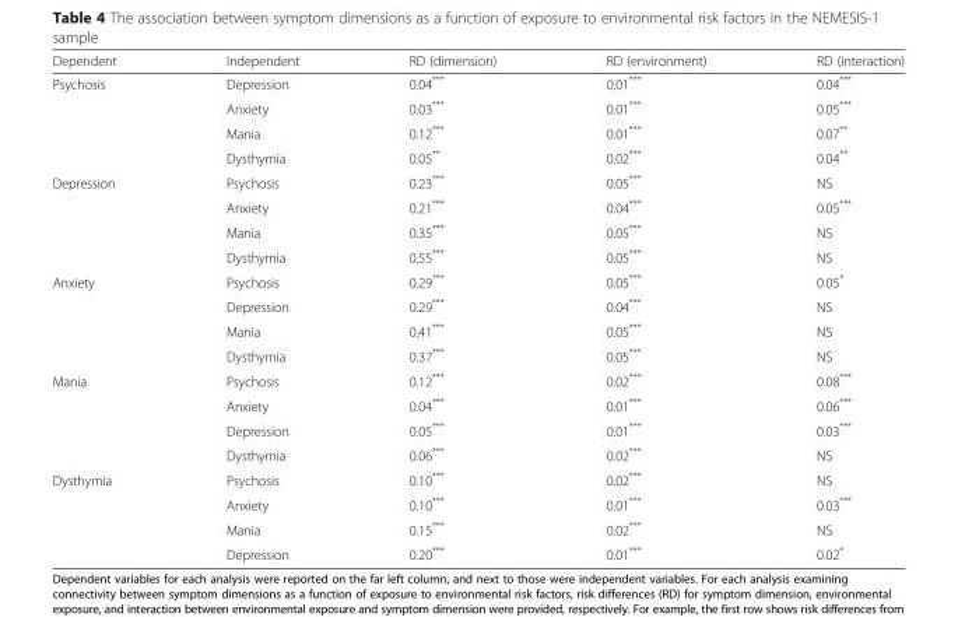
<table><thead><tr><td>Dependent</td><td>Independent</td><td>RD (dimension)</td><td>RD (environment)</td><td>RD (interaction)</td></tr></thead><tbody><tr><td rowspan="4">Psychosis</td><td>Depression</td><td>0.04***</td><td>0.01***</td><td>0.04***</td></tr><tr><td>Anxiety</td><td>0.03***</td><td>0.01***</td><td>0.05***</td></tr><tr><td>Mania</td><td>0.12***</td><td>0.01***</td><td>0.07**</td></tr><tr><td>Dysthymia</td><td>0.05**</td><td>0.02***</td><td>0.04**</td></tr><tr><td rowspan="4">Depression</td><td>Psychosis</td><td>0.23***</td><td>0.05***</td><td>NS</td></tr><tr><td>Anxiety</td><td>0.21***</td><td>0.04***</td><td>0.05***</td></tr><tr><td>Mania</td><td>0.35***</td><td>0.05***</td><td>NS</td></tr><tr><td>Dysthymia</td><td>0.55***</td><td>0.05***</td><td>NS</td></tr><tr><td rowspan="4">Anxiety</td><td>Psychosis</td><td>0.29***</td><td>0.05***</td><td>0.05*</td></tr><tr><td>Depression</td><td>0.29***</td><td>0.04***</td><td>NS</td></tr><tr><td>Mania</td><td>0.41***</td><td>0.05***</td><td>NS</td></tr><tr><td>Dysthymia</td><td>0.37***</td><td>0.05***</td><td>NS</td></tr><tr><td rowspan="4">Mania</td><td>Psychosis</td><td>0.12***</td><td>0.02***</td><td>0.08***</td></tr><tr><td>Anxiety</td><td>0.04***</td><td>0.01***</td><td>0.06***</td></tr><tr><td>Depression</td><td>0.05***</td><td>0.01***</td><td>0.03***</td></tr><tr><td>Dysthymia</td><td>0.06***</td><td>0.02***</td><td>NS</td></tr><tr><td rowspan="4">Dysthymia</td><td>Psychosis</td><td>0.10***</td><td>0.02***</td><td>NS</td></tr><tr><td>Anxiety</td><td>0.10***</td><td>0.01***</td><td>0.03***</td></tr><tr><td>Mania</td><td>0.15***</td><td>0.02***</td><td>NS</td></tr><tr><td>Depression</td><td>0.20***</td><td>0.01***</td><td>0.02*</td></tr></tbody></table>